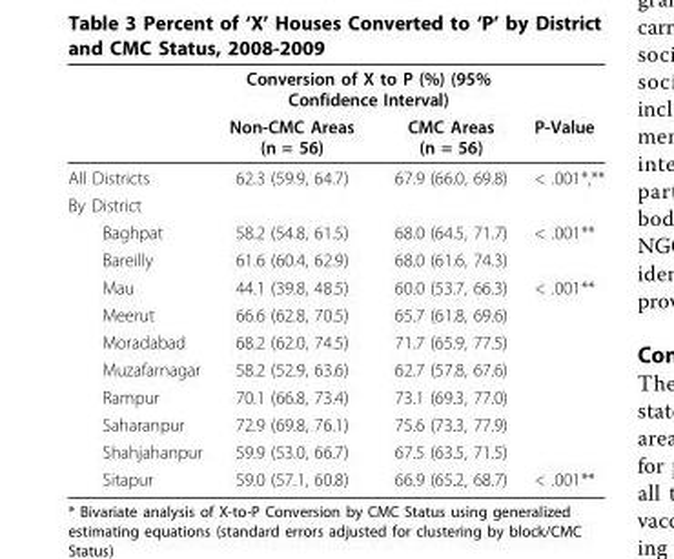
<table><thead><tr><td rowspan="2"></td><td colspan="2">Conversion of X to P (%) (95% Confidence Interval)</td><td rowspan="2">P-Value</td></tr><tr><td>Non-CMC Areas (n = 56)</td><td>CMC Areas (n = 56)</td></tr></thead><tbody><tr><td>All Districts</td><td>62.3 (59.9, 64.7)</td><td>67.9 (66.0, 69.8)</td><td>&lt; .001*,**</td></tr><tr><td colspan="4">By District</td></tr><tr><td>Baghpat</td><td>58.2 (54.8, 61.5)</td><td>68.0 (64.5, 71.7)</td><td>&lt; .001**</td></tr><tr><td>Bareilly</td><td>61.6 (60.4, 62.9)</td><td>68.0 (61.6, 74.3)</td><td></td></tr><tr><td>Mau</td><td>44.1 (39.8, 48.5)</td><td>60.0 (53.7, 66.3)</td><td>&lt; .001**</td></tr><tr><td>Meerut</td><td>66.6 (62.8, 70.5)</td><td>65.7 (61.8, 69.6)</td><td></td></tr><tr><td>Moradabad</td><td>68.2 (62.0, 74.5)</td><td>71.7 (65.9, 77.5)</td><td></td></tr><tr><td>Muzafarnagar</td><td>58.2 (52.9, 63.6)</td><td>62.7 (57.8, 67.6)</td><td></td></tr><tr><td>Rampur</td><td>70.1 (66.8, 73.4)</td><td>73.1 (69.3, 77.0)</td><td></td></tr><tr><td>Saharanpur</td><td>72.9 (69.8, 76.1)</td><td>75.6 (73.3, 77.9)</td><td></td></tr><tr><td>Shahjahanpur</td><td>59.9 (53.0, 66.7)</td><td>67.5 (63.5, 71.5)</td><td></td></tr><tr><td>Sitapur</td><td>59.0 (57.1, 60.8)</td><td>66.9 (65.2, 68.7)</td><td>&lt; .001**</td></tr></tbody></table>